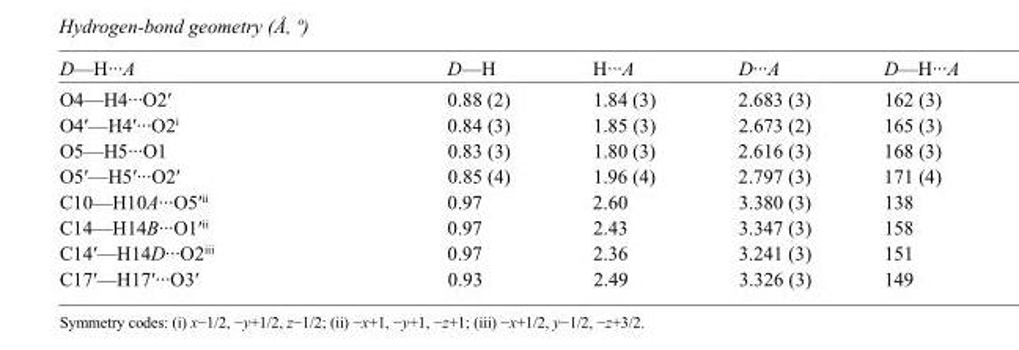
<table><tbody><tr><td>D—H···A</td><td>D—H</td><td>H···A</td><td>D···A</td><td>D—H···A</td></tr><tr><td>O4—H4···O2′</td><td>0.88 (2)</td><td>1.84 (3)</td><td>2.683 (3)</td><td>162 (3)</td></tr><tr><td>O4′—H4′···O2<sup>i</sup></td><td>0.84 (3)</td><td>1.85 (3)</td><td>2.673 (2)</td><td>165 (3)</td></tr><tr><td>O5—H5···O1</td><td>0.83 (3)</td><td>1.80 (3)</td><td>2.616 (3)</td><td>168 (3)</td></tr><tr><td>O5′—H5′···O2′</td><td>0.85 (4)</td><td>1.96 (4)</td><td>2.797 (3)</td><td>171 (4)</td></tr><tr><td>C10—H10A···O5′<sup>ii</sup></td><td>0.97</td><td>2.60</td><td>3.380 (3)</td><td>138</td></tr><tr><td>C14—H14B···O1′<sup>ii</sup></td><td>0.97</td><td>2.43</td><td>3.347 (3)</td><td>158</td></tr><tr><td>C14′—H14D···O2<sup>iii</sup></td><td>0.97</td><td>2.36</td><td>3.241 (3)</td><td>151</td></tr><tr><td>C17′—H17′···O3′</td><td>0.93</td><td>2.49</td><td>3.326 (3)</td><td>149</td></tr></tbody></table>